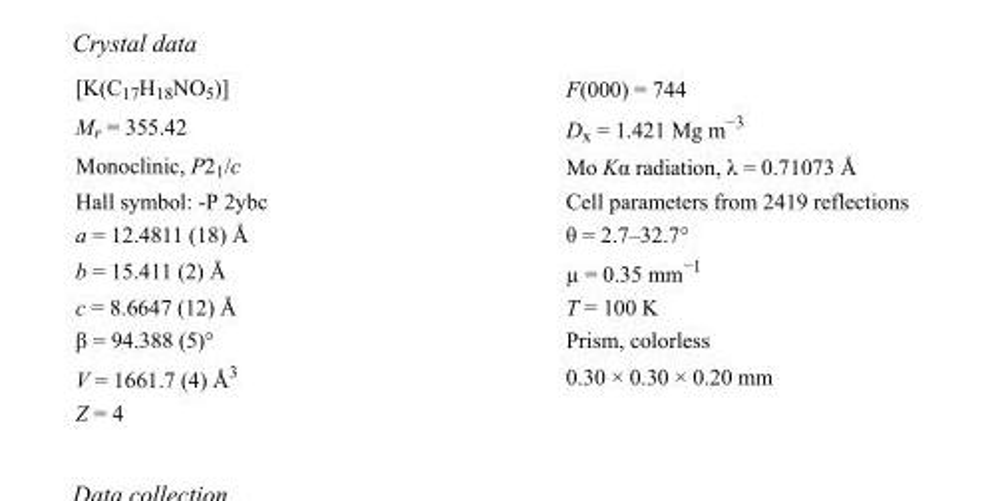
<table><tbody><tr><td>[K(C<sub>17</sub>H<sub>18</sub>NO<sub>5</sub>)]</td><td>F(000) = 744</td></tr><tr><td>M<sub>r</sub> = 355.42</td><td>D<sub>x</sub> = 1.421 Mg m<sup>−3</sup></td></tr><tr><td>Monoclinic, P2<sub>1</sub>/c</td><td>Mo Kα radiation, λ = 0.71073 Å</td></tr><tr><td>Hall symbol: -P 2ybc</td><td>Cell parameters from 2419 reflections</td></tr><tr><td>a = 12.4811 (18) Å</td><td>θ = 2.7–32.7°</td></tr><tr><td>b = 15.411 (2) Å</td><td>µ = 0.35 mm<sup>−1</sup></td></tr><tr><td>c = 8.6647 (12) Å</td><td>T = 100 K</td></tr><tr><td>β = 94.388 (5)°</td><td>Prism, colorless</td></tr><tr><td>V = 1661.7 (4) Å<sup>3</sup></td><td>0.30 × 0.30 × 0.20 mm</td></tr><tr><td>Z = 4</td><td></td></tr></tbody></table>